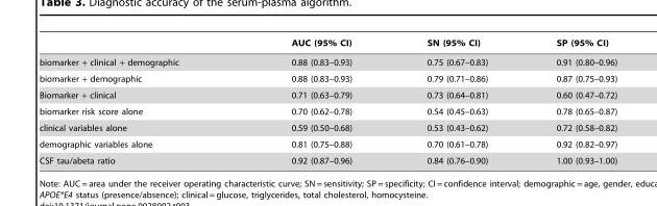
<table><thead><tr><td></td><td>AUC (95% CI)</td><td>SN (95% CI)</td><td>SP (95% CI)</td></tr></thead><tbody><tr><td>biomarker + clinical + demographic</td><td>0.88 (0.83–0.93)</td><td>0.75 (0.67–0.83)</td><td>0.91 (0.80–0.96)</td></tr><tr><td>biomarker + demographic</td><td>0.88 (0.83–0.93)</td><td>0.79 (0.71–0.86)</td><td>0.87 (0.75–0.93)</td></tr><tr><td>Biomarker + clinical</td><td>0.71 (0.63–0.79)</td><td>0.73 (0.64–0.81)</td><td>0.60 (0.47–0.72)</td></tr><tr><td>biomarker risk score alone</td><td>0.70 (0.62–0.78)</td><td>0.54 (0.45–0.63)</td><td>0.78 (0.65–0.87)</td></tr><tr><td>clinical variables alone</td><td>0.59 (0.50–0.68)</td><td>0.53 (0.43–0.62)</td><td>0.72 (0.58–0.82)</td></tr><tr><td>demographic variables alone</td><td>0.81 (0.75–0.88)</td><td>0.70 (0.61–0.78)</td><td>0.92 (0.82–0.97)</td></tr><tr><td>CSF tau/abeta ratio</td><td>0.92 (0.87–0.96)</td><td>0.84 (0.76–0.90)</td><td>1.00 (0.93–1.00)</td></tr></tbody></table>